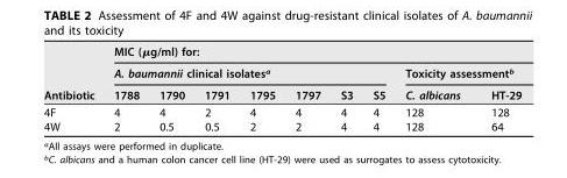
<table><thead><tr><td rowspan="3">Antibiotic</td><td colspan="9">MIC (μg/ml) for:</td></tr><tr><td colspan="7">A. baumannii clinical isolates<sup>a</sup></td><td colspan="2">Toxicity assessment<sup>b</sup></td></tr><tr><td>1788</td><td>1790</td><td>1791</td><td>1795</td><td>1797</td><td>S3</td><td>S5</td><td>C. albicans</td><td>HT-29</td></tr></thead><tbody><tr><td>4F</td><td>4</td><td>4</td><td>2</td><td>4</td><td>4</td><td>4</td><td>4</td><td>128</td><td>128</td></tr><tr><td>4W</td><td>2</td><td>0.5</td><td>0.5</td><td>2</td><td>2</td><td>4</td><td>4</td><td>128</td><td>64</td></tr></tbody></table>